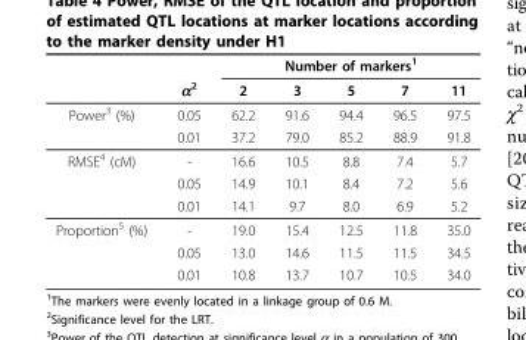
<table><thead><tr><td rowspan="2"></td><td rowspan="2">α<sup>2</sup></td><td colspan="5">Number of markers<sup>1</sup></td></tr><tr><td>2</td><td>3</td><td>5</td><td>7</td><td>11</td></tr></thead><tbody><tr><td rowspan="2">Power<sup>3</sup> (%)</td><td>0.05</td><td>62.2</td><td>91.6</td><td>94.4</td><td>96.5</td><td>97.5</td></tr><tr><td>0.01</td><td>37.2</td><td>79.0</td><td>85.2</td><td>88.9</td><td>91.8</td></tr><tr><td rowspan="3">RMSE<sup>4</sup> (cM)</td><td>-</td><td>16.6</td><td>10.5</td><td>8.8</td><td>7.4</td><td>5.7</td></tr><tr><td>0.05</td><td>14.9</td><td>10.1</td><td>8.4</td><td>7.2</td><td>5.6</td></tr><tr><td>0.01</td><td>14.1</td><td>9.7</td><td>8.0</td><td>6.9</td><td>5.2</td></tr><tr><td rowspan="3">Proportion<sup>5</sup> (%)</td><td>-</td><td>19.0</td><td>15.4</td><td>12.5</td><td>11.8</td><td>35.0</td></tr><tr><td>0.05</td><td>13.0</td><td>14.6</td><td>11.5</td><td>11.5</td><td>34.5</td></tr><tr><td>0.01</td><td>10.8</td><td>13.7</td><td>10.7</td><td>10.5</td><td>34.0</td></tr></tbody></table>